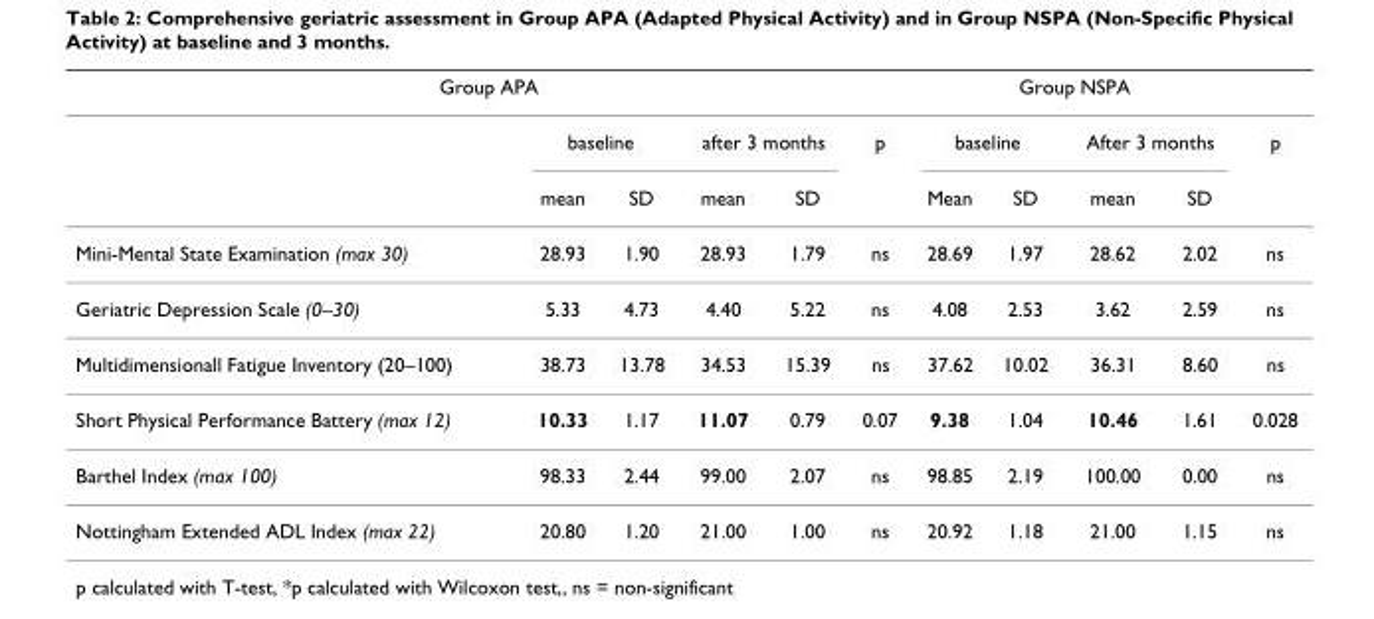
<table><thead><tr><td colspan="6">Group APA</td><td colspan="4">Group NSPA</td><td rowspan="3">p</td></tr><tr><td rowspan="2"></td><td colspan="2">baseline</td><td colspan="2">after 3 months</td><td rowspan="2">p</td><td colspan="2">baseline</td><td colspan="2">After 3 months</td></tr><tr><td>mean</td><td>SD</td><td>mean</td><td>SD</td><td>Mean</td><td>SD</td><td>mean</td><td>SD</td></tr></thead><tbody><tr><td>Mini-Mental State Examination (max 30)</td><td>28.93</td><td>1.90</td><td>28.93</td><td>1.79</td><td>ns</td><td>28.69</td><td>1.97</td><td>28.62</td><td>2.02</td><td>ns</td></tr><tr><td>Geriatric Depression Scale (0–30)</td><td>5.33</td><td>4.73</td><td>4.40</td><td>5.22</td><td>ns</td><td>4.08</td><td>2.53</td><td>3.62</td><td>2.59</td><td>ns</td></tr><tr><td>Multidimensionall Fatigue Inventory (20–100)</td><td>38.73</td><td>13.78</td><td>34.53</td><td>15.39</td><td>ns</td><td>37.62</td><td>10.02</td><td>36.31</td><td>8.60</td><td>ns</td></tr><tr><td>Short Physical Performance Battery (max 12)</td><td>10.33</td><td>1.17</td><td>11.07</td><td>0.79</td><td>0.07</td><td>9.38</td><td>1.04</td><td>10.46</td><td>1.61</td><td>0.028</td></tr><tr><td>Barthel Index (max 100)</td><td>98.33</td><td>2.44</td><td>99.00</td><td>2.07</td><td>ns</td><td>98.85</td><td>2.19</td><td>100.00</td><td>0.00</td><td>ns</td></tr><tr><td>Nottingham Extended ADL Index (max 22)</td><td>20.80</td><td>1.20</td><td>21.00</td><td>1.00</td><td>ns</td><td>20.92</td><td>1.18</td><td>21.00</td><td>1.15</td><td>ns</td></tr></tbody></table>